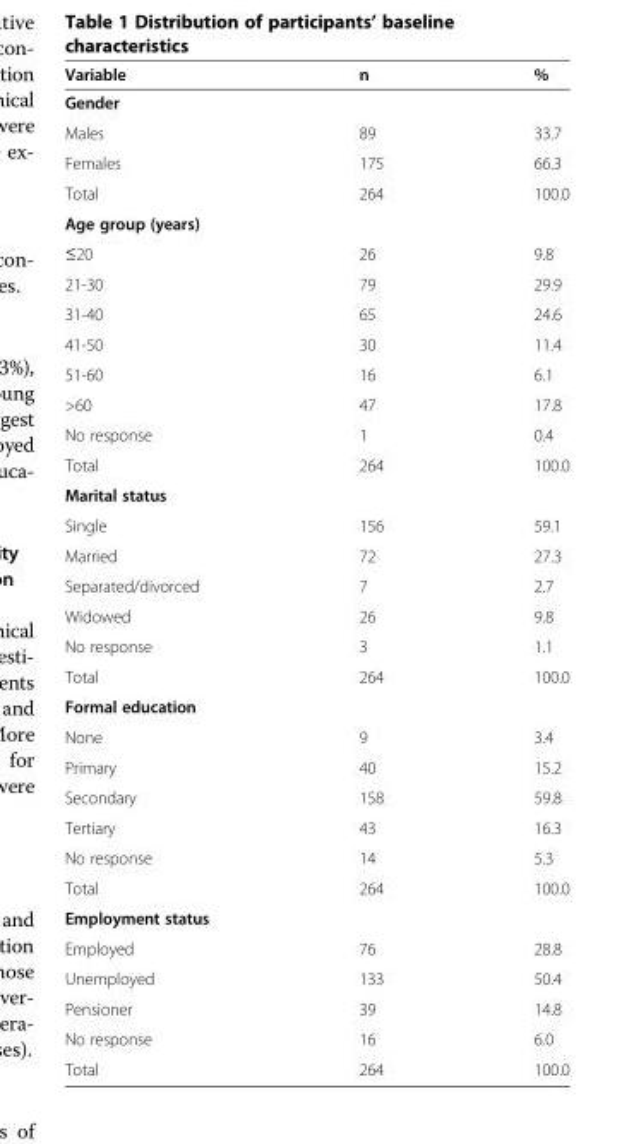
<table><thead><tr><td>Variable</td><td>n</td><td>%</td></tr></thead><tbody><tr><td colspan="3">Gender</td></tr><tr><td>Males</td><td>89</td><td>33.7</td></tr><tr><td>Females</td><td>175</td><td>66.3</td></tr><tr><td>Total</td><td>264</td><td>100.0</td></tr><tr><td colspan="3">Age group (years)</td></tr><tr><td>≤20</td><td>26</td><td>9.8</td></tr><tr><td>21-30</td><td>79</td><td>29.9</td></tr><tr><td>31-40</td><td>65</td><td>24.6</td></tr><tr><td>41-50</td><td>30</td><td>11.4</td></tr><tr><td>51-60</td><td>16</td><td>6.1</td></tr><tr><td>&gt;60</td><td>47</td><td>17.8</td></tr><tr><td>No response</td><td>1</td><td>0.4</td></tr><tr><td>Total</td><td>264</td><td>100.0</td></tr><tr><td colspan="3">Marital status</td></tr><tr><td>Single</td><td>156</td><td>59.1</td></tr><tr><td>Married</td><td>72</td><td>27.3</td></tr><tr><td>Separated/divorced</td><td>7</td><td>2.7</td></tr><tr><td>Widowed</td><td>26</td><td>9.8</td></tr><tr><td>No response</td><td>3</td><td>1.1</td></tr><tr><td>Total</td><td>264</td><td>100.0</td></tr><tr><td colspan="3">Formal education</td></tr><tr><td>None</td><td>9</td><td>3.4</td></tr><tr><td>Primary</td><td>40</td><td>15.2</td></tr><tr><td>Secondary</td><td>158</td><td>59.8</td></tr><tr><td>Tertiary</td><td>43</td><td>16.3</td></tr><tr><td>No response</td><td>14</td><td>5.3</td></tr><tr><td>Total</td><td>264</td><td>100.0</td></tr><tr><td colspan="3">Employment status</td></tr><tr><td>Employed</td><td>76</td><td>28.8</td></tr><tr><td>Unemployed</td><td>133</td><td>50.4</td></tr><tr><td>Pensioner</td><td>39</td><td>14.8</td></tr><tr><td>No response</td><td>16</td><td>6.0</td></tr><tr><td>Total</td><td>264</td><td>100.0</td></tr></tbody></table>